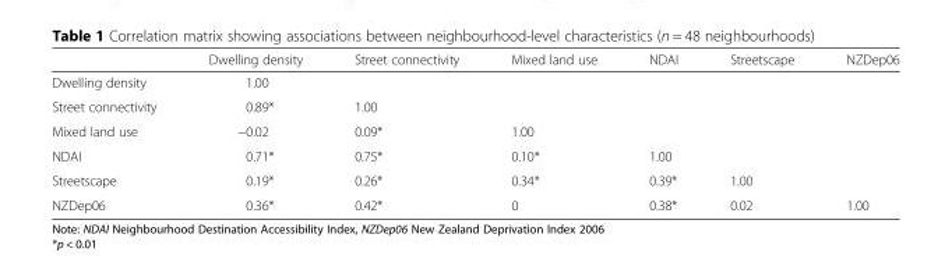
<table><thead><tr><td></td><td>Dwelling density</td><td>Street connectivity</td><td>Mixed land use</td><td>NDAI</td><td>Streetscape</td><td>NZDep06</td></tr></thead><tbody><tr><td>Dwelling density</td><td>1.00</td><td></td><td></td><td></td><td></td><td></td></tr><tr><td>Street connectivity</td><td>0.89*</td><td>1.00</td><td></td><td></td><td></td><td></td></tr><tr><td>Mixed land use</td><td>−0.02</td><td>0.09*</td><td>1.00</td><td></td><td></td><td></td></tr><tr><td>NDAI</td><td>0.71*</td><td>0.75*</td><td>0.10*</td><td>1.00</td><td></td><td></td></tr><tr><td>Streetscape</td><td>0.19*</td><td>0.26*</td><td>0.34*</td><td>0.39*</td><td>1.00</td><td></td></tr><tr><td>NZDep06</td><td>0.36*</td><td>0.42*</td><td>0</td><td>0.38*</td><td>0.02</td><td>1.00</td></tr></tbody></table>